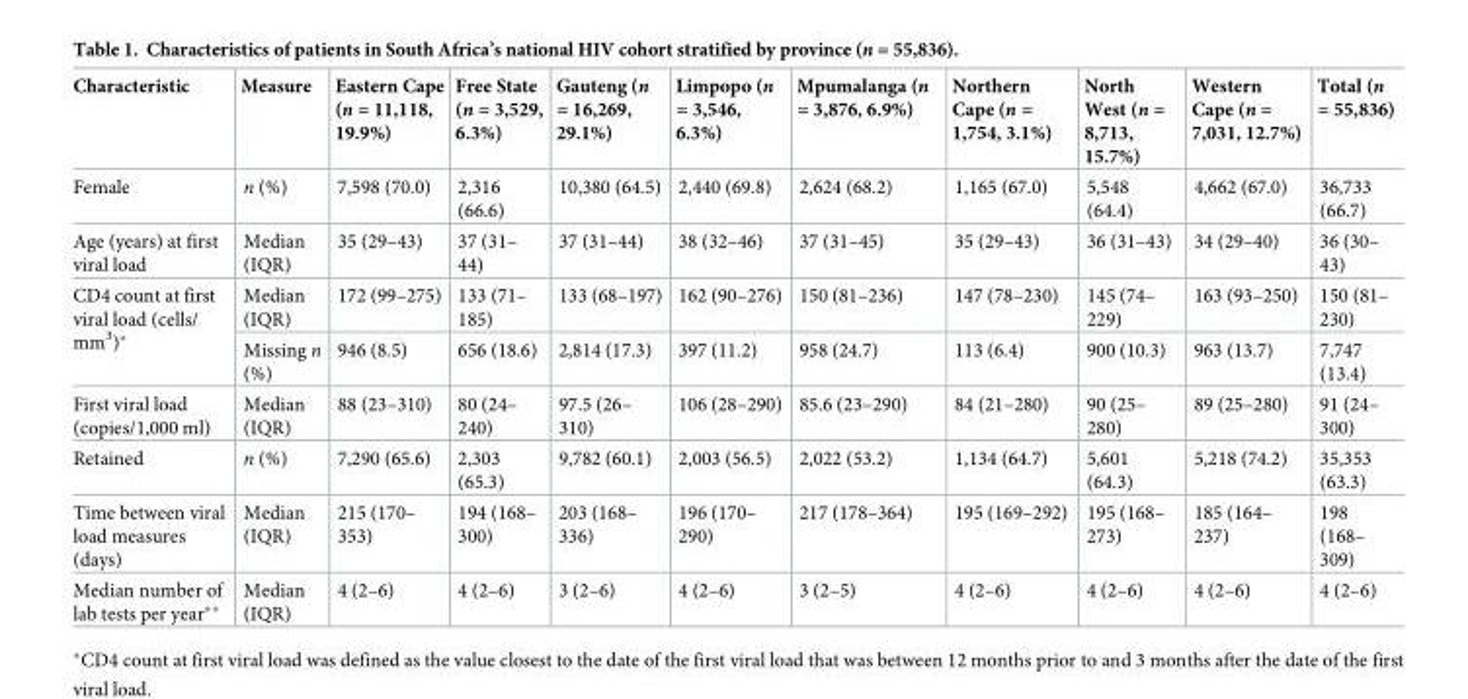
<table><thead><tr><td>Characteristic</td><td>Measure</td><td>Eastern Cape (n = 11,118, 19.9%)</td><td>Free State (n = 3,529, 6.3%)</td><td>Gauteng (n = 16,269, 29.1%)</td><td>Limpopo (n = 3,546, 6.3%)</td><td>Mpumalanga (n = 3,876, 6.9%)</td><td>Northern Cape (n = 1,754, 3.1%)</td><td>North West (n = 8,713, 15.7%)</td><td>Western Cape (n = 7,031, 12.7%)</td><td>Total (n = 55,836)</td></tr></thead><tbody><tr><td>Female</td><td>n (%)</td><td>7,598 (70.0)</td><td>2,316 (66.6)</td><td>10,380 (64.5)</td><td>2,440 (69.8)</td><td>2,624 (68.2)</td><td>1,165 (67.0)</td><td>5,548 (64.4)</td><td>4,662 (67.0)</td><td>36,733 (66.7)</td></tr><tr><td>Age (years) at first viral load</td><td>Median (IQR)</td><td>35 (29–43)</td><td>37 (31– 44)</td><td>37 (31–44)</td><td>38 (32–46)</td><td>37 (31–45)</td><td>35 (29–43)</td><td>36 (31–43)</td><td>34 (29–40)</td><td>36 (30– 43)</td></tr><tr><td rowspan="2">CD4 count at first viral load (cells/ mm<sup>3</sup>)*</td><td>Median (IQR)</td><td>172 (99–275)</td><td>133 (71– 185)</td><td>133 (68–197)</td><td>162 (90–276)</td><td>150 (81–236)</td><td>147 (78–230)</td><td>145 (74– 229)</td><td>163 (93–250)</td><td>150 (81– 230)</td></tr><tr><td>Missing n (%)</td><td>946 (8.5)</td><td>656 (18.6)</td><td>2,814 (17.3)</td><td>397 (11.2)</td><td>958 (24.7)</td><td>113 (6.4)</td><td>900 (10.3)</td><td>963 (13.7)</td><td>7,747 (13.4)</td></tr><tr><td>First viral load (copies/1,000 ml)</td><td>Median (IQR)</td><td>88 (23–310)</td><td>80 (24– 240)</td><td>97.5 (26– 310)</td><td>106 (28–290)</td><td>85.6 (23–290)</td><td>84 (21–280)</td><td>90 (25– 280)</td><td>89 (25–280)</td><td>91 (24– 300)</td></tr><tr><td>Retained</td><td>n (%)</td><td>7,290 (65.6)</td><td>2,303 (65.3)</td><td>9,782 (60.1)</td><td>2,003 (56.5)</td><td>2,022 (53.2)</td><td>1,134 (64.7)</td><td>5,601 (64.3)</td><td>5,218 (74.2)</td><td>35,353 (63.3)</td></tr><tr><td>Time between viral load measures (days)</td><td>Median (IQR)</td><td>215 (170– 353)</td><td>194 (168– 300)</td><td>203 (168– 336)</td><td>196 (170– 290)</td><td>217 (178–364)</td><td>195 (169–292)</td><td>195 (168– 273)</td><td>185 (164– 237)</td><td>198 (168– 309)</td></tr><tr><td>Median number of lab tests per year**</td><td>Median (IQR)</td><td>4 (2–6)</td><td>4 (2–6)</td><td>3 (2–6)</td><td>4 (2–6)</td><td>3 (2–5)</td><td>4 (2–6)</td><td>4 (2–6)</td><td>4 (2–6)</td><td>4 (2–6)</td></tr></tbody></table>